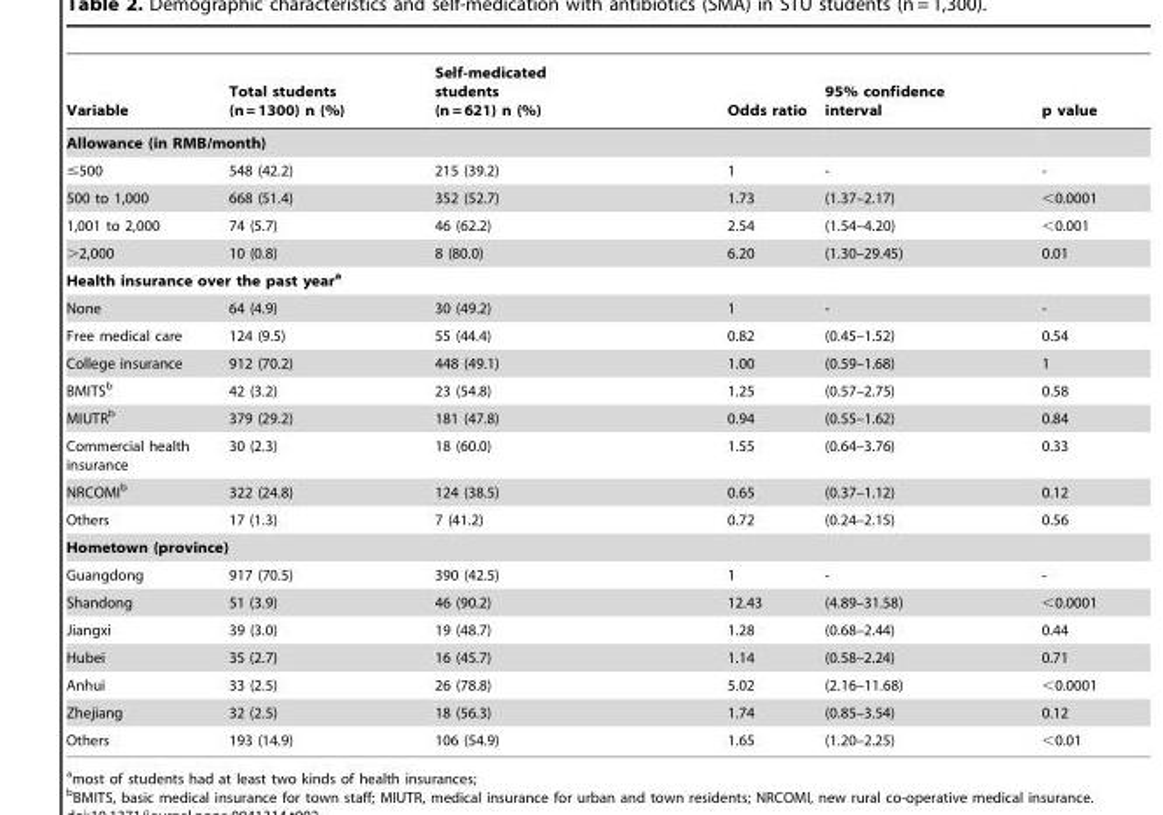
<table><thead><tr><td>Variable</td><td>Total students (n = 1300) n (%)</td><td>Self-medicated students (n = 621) n (%)</td><td>Odds ratio</td><td>95% confidence interval</td><td>p value</td></tr></thead><tbody><tr><td colspan="6">Allowance (in RMB/month)</td></tr><tr><td>≤500</td><td>548 (42.2)</td><td>215 (39.2)</td><td>1</td><td>-</td><td>-</td></tr><tr><td>500 to 1,000</td><td>668 (51.4)</td><td>352 (52.7)</td><td>1.73</td><td>(1.37–2.17)</td><td>&lt;0.0001</td></tr><tr><td>1,001 to 2,000</td><td>74 (5.7)</td><td>46 (62.2)</td><td>2.54</td><td>(1.54–4.20)</td><td>&lt;0.001</td></tr><tr><td>&gt;2,000</td><td>10 (0.8)</td><td>8 (80.0)</td><td>6.20</td><td>(1.30–29.45)</td><td>0.01</td></tr><tr><td colspan="6">Health insurance over the past yeara</td></tr><tr><td>None</td><td>64 (4.9)</td><td>30 (49.2)</td><td>1</td><td>-</td><td>-</td></tr><tr><td>Free medical care</td><td>124 (9.5)</td><td>55 (44.4)</td><td>0.82</td><td>(0.45–1.52)</td><td>0.54</td></tr><tr><td>College insurance</td><td>912 (70.2)</td><td>448 (49.1)</td><td>1.00</td><td>(0.59–1.68)</td><td>1</td></tr><tr><td>BMITS<sup>b</sup></td><td>42 (3.2)</td><td>23 (54.8)</td><td>1.25</td><td>(0.57–2.75)</td><td>0.58</td></tr><tr><td>MIUTR<sup>b</sup></td><td>379 (29.2)</td><td>181 (47.8)</td><td>0.94</td><td>(0.55–1.62)</td><td>0.84</td></tr><tr><td>Commercial health insurance</td><td>30 (2.3)</td><td>18 (60.0)</td><td>1.55</td><td>(0.64–3.76)</td><td>0.33</td></tr><tr><td>NRCOMI<sup>b</sup></td><td>322 (24.8)</td><td>124 (38.5)</td><td>0.65</td><td>(0.37–1.12)</td><td>0.12</td></tr><tr><td>Others</td><td>17 (1.3)</td><td>7 (41.2)</td><td>0.72</td><td>(0.24–2.15)</td><td>0.56</td></tr><tr><td colspan="6">Hometown (province)</td></tr><tr><td>Guangdong</td><td>917 (70.5)</td><td>390 (42.5)</td><td>1</td><td>-</td><td>-</td></tr><tr><td>Shandong</td><td>51 (3.9)</td><td>46 (90.2)</td><td>12.43</td><td>(4.89–31.58)</td><td>&lt;0.0001</td></tr><tr><td>Jiangxi</td><td>39 (3.0)</td><td>19 (48.7)</td><td>1.28</td><td>(0.68–2.44)</td><td>0.44</td></tr><tr><td>Hubei</td><td>35 (2.7)</td><td>16 (45.7)</td><td>1.14</td><td>(0.58–2.24)</td><td>0.71</td></tr><tr><td>Anhui</td><td>33 (2.5)</td><td>26 (78.8)</td><td>5.02</td><td>(2.16–11.68)</td><td>&lt;0.0001</td></tr><tr><td>Zhejiang</td><td>32 (2.5)</td><td>18 (56.3)</td><td>1.74</td><td>(0.85–3.54)</td><td>0.12</td></tr><tr><td>Others</td><td>193 (14.9)</td><td>106 (54.9)</td><td>1.65</td><td>(1.20–2.25)</td><td>&lt;0.01</td></tr></tbody></table>